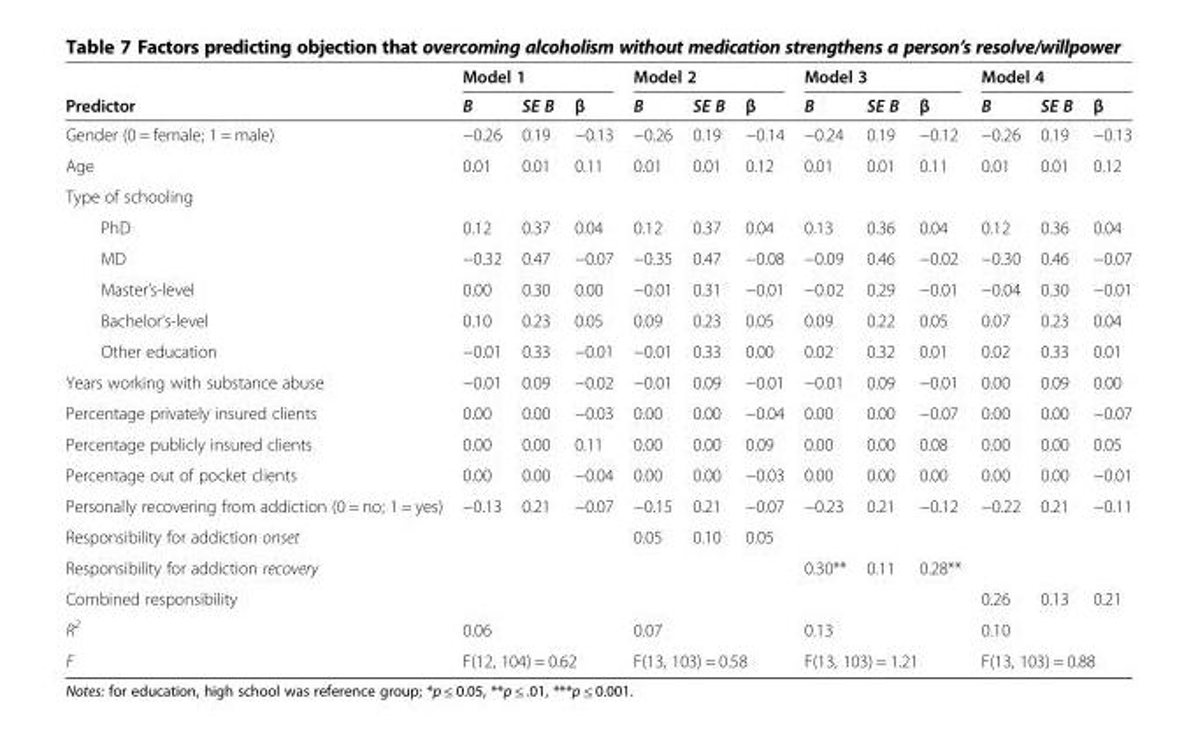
<table><thead><tr><td rowspan="2">Predictor</td><td colspan="3">Model 1</td><td colspan="3">Model 2</td><td colspan="3">Model 3</td><td colspan="3">Model 4</td></tr><tr><td>B</td><td>SE B</td><td>β</td><td>B</td><td>SE B</td><td>β</td><td>B</td><td>SE B</td><td>β</td><td>B</td><td>SE B</td><td>β</td></tr></thead><tbody><tr><td>Gender (0 = female; 1 = male)</td><td>−0.26</td><td>0.19</td><td>−0.13</td><td>−0.26</td><td>0.19</td><td>−0.14</td><td>−0.24</td><td>0.19</td><td>−0.12</td><td>−0.26</td><td>0.19</td><td>−0.13</td></tr><tr><td>Age</td><td>0.01</td><td>0.01</td><td>0.11</td><td>0.01</td><td>0.01</td><td>0.12</td><td>0.01</td><td>0.01</td><td>0.11</td><td>0.01</td><td>0.01</td><td>0.12</td></tr><tr><td colspan="13">Type of schooling</td></tr><tr><td>PhD</td><td>0.12</td><td>0.37</td><td>0.04</td><td>0.12</td><td>0.37</td><td>0.04</td><td>0.13</td><td>0.36</td><td>0.04</td><td>0.12</td><td>0.36</td><td>0.04</td></tr><tr><td>MD</td><td>−0.32</td><td>0.47</td><td>−0.07</td><td>−0.35</td><td>0.47</td><td>−0.08</td><td>−0.09</td><td>0.46</td><td>−0.02</td><td>−0.30</td><td>0.46</td><td>−0.07</td></tr><tr><td>Master’s-level</td><td>0.00</td><td>0.30</td><td>0.00</td><td>−0.01</td><td>0.31</td><td>−0.01</td><td>−0.02</td><td>0.29</td><td>−0.01</td><td>−0.04</td><td>0.30</td><td>−0.01</td></tr><tr><td>Bachelor’s-level</td><td>0.10</td><td>0.23</td><td>0.05</td><td>0.09</td><td>0.23</td><td>0.05</td><td>0.09</td><td>0.22</td><td>0.05</td><td>0.07</td><td>0.23</td><td>0.04</td></tr><tr><td>Other education</td><td>−0.01</td><td>0.33</td><td>−0.01</td><td>−0.01</td><td>0.33</td><td>0.00</td><td>0.02</td><td>0.32</td><td>0.01</td><td>0.02</td><td>0.33</td><td>0.01</td></tr><tr><td>Years working with substance abuse</td><td>−0.01</td><td>0.09</td><td>−0.02</td><td>−0.01</td><td>0.09</td><td>−0.01</td><td>−0.01</td><td>0.09</td><td>−0.01</td><td>0.00</td><td>0.09</td><td>0.00</td></tr><tr><td>Percentage privately insured clients</td><td>0.00</td><td>0.00</td><td>−0.03</td><td>0.00</td><td>0.00</td><td>−0.04</td><td>0.00</td><td>0.00</td><td>−0.07</td><td>0.00</td><td>0.00</td><td>−0.07</td></tr><tr><td>Percentage publicly insured clients</td><td>0.00</td><td>0.00</td><td>0.11</td><td>0.00</td><td>0.00</td><td>0.09</td><td>0.00</td><td>0.00</td><td>0.08</td><td>0.00</td><td>0.00</td><td>0.05</td></tr><tr><td>Percentage out of pocket clients</td><td>0.00</td><td>0.00</td><td>−0.04</td><td>0.00</td><td>0.00</td><td>−0.03</td><td>0.00</td><td>0.00</td><td>0.00</td><td>0.00</td><td>0.00</td><td>−0.01</td></tr><tr><td>Personally recovering from addiction (0 = no; 1 = yes)</td><td>−0.13</td><td>0.21</td><td>−0.07</td><td>−0.15</td><td>0.21</td><td>−0.07</td><td>−0.23</td><td>0.21</td><td>−0.12</td><td>−0.22</td><td>0.21</td><td>−0.11</td></tr><tr><td>Responsibility for addiction onset</td><td></td><td></td><td></td><td>0.05</td><td>0.10</td><td>0.05</td><td></td><td></td><td></td><td></td><td></td><td></td></tr><tr><td>Responsibility for addiction recovery</td><td></td><td></td><td></td><td></td><td></td><td></td><td>0.30**</td><td>0.11</td><td>0.28**</td><td></td><td></td><td></td></tr><tr><td>Combined responsibility</td><td></td><td></td><td></td><td></td><td colspan="3"></td><td colspan="2"></td><td>0.26</td><td>0.13</td><td>0.21</td></tr><tr><td>R<sup>2</sup></td><td colspan="3">0.06</td><td colspan="3">0.07</td><td colspan="3">0.13</td><td colspan="3">0.10</td></tr><tr><td>F</td><td colspan="3">F(12, 104) = 0.62</td><td colspan="3">F(13, 103) = 0.58</td><td colspan="3">F(13, 103) = 1.21</td><td colspan="3">F(13, 103) = 0.88</td></tr></tbody></table>